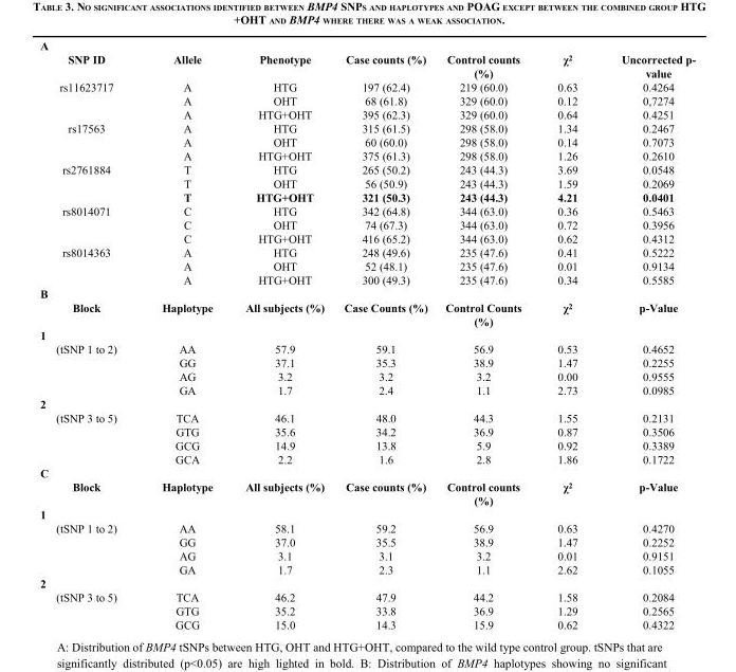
<table><thead><tr><td colspan="7">A</td></tr><tr><td>SNP ID</td><td>Allele</td><td>Phenotype</td><td>Case counts (%)</td><td>Control counts (%)</td><td>χ<sup>2</sup></td><td>Uncorrected p- value</td></tr></thead><tbody><tr><td rowspan="3">rs11623717</td><td>A</td><td>HTG</td><td>197 (62.4)</td><td>219 (60.0)</td><td>0.63</td><td>0.4264</td></tr><tr><td>A</td><td>OHT</td><td>68 (61.8)</td><td>329 (60.0)</td><td>0.12</td><td>0,7274</td></tr><tr><td>A</td><td>HTG+OHT</td><td>395 (62.3)</td><td>329 (60.0)</td><td>0.64</td><td>0.4251</td></tr><tr><td rowspan="3">rs17563</td><td>A</td><td>HTG</td><td>315 (61.5)</td><td>298 (58.0)</td><td>1.34</td><td>0.2467</td></tr><tr><td>A</td><td>OHT</td><td>60 (60.0)</td><td>298 (58.0)</td><td>0.14</td><td>0.7073</td></tr><tr><td>A</td><td>HTG+OHT</td><td>375 (61.3)</td><td>298 (58.0)</td><td>1.26</td><td>0.2610</td></tr><tr><td rowspan="3">rs2761884</td><td>T</td><td>HTG</td><td>265 (50.2)</td><td>243 (44.3)</td><td>3.69</td><td>0.0548</td></tr><tr><td>T</td><td>OHT</td><td>56 (50.9)</td><td>243 (44.3)</td><td>1.59</td><td>0.2069</td></tr><tr><td>T</td><td>HTG+OHT</td><td>321 (50.3)</td><td>243 (44.3)</td><td>4.21</td><td>0.0401</td></tr><tr><td rowspan="3">rs8014071</td><td>C</td><td>HTG</td><td>342 (64.8)</td><td>344 (63.0)</td><td>0.36</td><td>0.5463</td></tr><tr><td>C</td><td>OHT</td><td>74 (67.3)</td><td>344 (63.0)</td><td>0.72</td><td>0.3956</td></tr><tr><td>C</td><td>HTG+OHT</td><td>416 (65.2)</td><td>344 (63.0)</td><td>0.62</td><td>0.4312</td></tr><tr><td rowspan="3">rs8014363</td><td>A</td><td>HTG</td><td>248 (49.6)</td><td>235 (47.6)</td><td>0.41</td><td>0.5222</td></tr><tr><td>A</td><td>OHT</td><td>52 (48.1)</td><td>235 (47.6)</td><td>0.01</td><td>0.9134</td></tr><tr><td>A</td><td>HTG+OHT</td><td>300 (49.3)</td><td>235 (47.6)</td><td>0.34</td><td>0.5585</td></tr><tr><td colspan="7">B</td></tr><tr><td>Block</td><td>Haplotype</td><td>All subjects (%)</td><td>Case Counts (%)</td><td>Control Counts (%)</td><td>χ<sup>2</sup></td><td>p-Value</td></tr><tr><td colspan="7">1</td></tr><tr><td rowspan="4">(tSNP 1 to 2)</td><td>AA</td><td>57.9</td><td>59.1</td><td>56.9</td><td>0.53</td><td>0.4652</td></tr><tr><td>GG</td><td>37.1</td><td>35.3</td><td>38.9</td><td>1.47</td><td>0.2255</td></tr><tr><td>AG</td><td>3.2</td><td>3.2</td><td>3.2</td><td>0.00</td><td>0.9555</td></tr><tr><td>GA</td><td>1.7</td><td>2.4</td><td>1.1</td><td>2.73</td><td>0.0985</td></tr><tr><td colspan="7">2</td></tr><tr><td rowspan="4">(tSNP 3 to 5)</td><td>TCA</td><td>46.1</td><td>48.0</td><td>44.3</td><td>1.55</td><td>0.2131</td></tr><tr><td>GTG</td><td>35.6</td><td>34.2</td><td>36.9</td><td>0.87</td><td>0.3506</td></tr><tr><td>GCG</td><td>14.9</td><td>13.8</td><td>5.9</td><td>0.92</td><td>0.3389</td></tr><tr><td>GCA</td><td>2.2</td><td>1.6</td><td>2.8</td><td>1.86</td><td>0.1722</td></tr><tr><td colspan="7">C</td></tr><tr><td>Block</td><td>Haplotype</td><td>All subjects (%)</td><td>Case counts (%)</td><td>Control counts (%)</td><td>χ<sup>2</sup></td><td>p-Value</td></tr><tr><td colspan="7">1</td></tr><tr><td rowspan="4">(tSNP 1 to 2)</td><td>AA</td><td>58.1</td><td>59.2</td><td>56.9</td><td>0.63</td><td>0.4270</td></tr><tr><td>GG</td><td>37.0</td><td>35.5</td><td>38.9</td><td>1.47</td><td>0.2252</td></tr><tr><td>AG</td><td>3.1</td><td>3.1</td><td>3.2</td><td>0.01</td><td>0.9151</td></tr><tr><td>GA</td><td>1.7</td><td>2.3</td><td>1.1</td><td>2.62</td><td>0.1055</td></tr><tr><td colspan="7">2</td></tr><tr><td rowspan="3">(tSNP 3 to 5)</td><td>TCA</td><td>46.2</td><td>47.9</td><td>44.2</td><td>1.58</td><td>0.2084</td></tr><tr><td>GTG</td><td>35.2</td><td>33.8</td><td>36.9</td><td>1.29</td><td>0.2565</td></tr><tr><td>GCG</td><td>15.0</td><td>14.3</td><td>15.9</td><td>0.62</td><td>0.4322</td></tr></tbody></table>